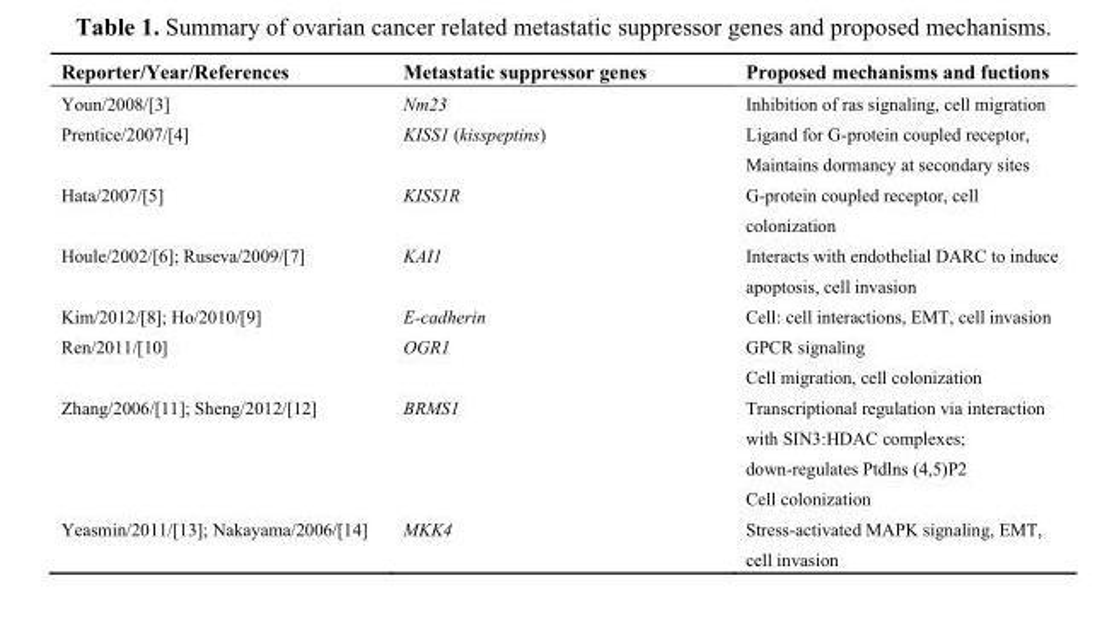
<table><thead><tr><td>Reporter/Year/References</td><td>Metastatic suppressor genes</td><td>Proposed mechanisms and fuctions</td></tr></thead><tbody><tr><td>Youn/2008/[3]</td><td>Nm23</td><td>Inhibition of ras signaling, cell migration</td></tr><tr><td>Prentice/2007/[4]</td><td>KISS1 (kisspeptins)</td><td>Ligand for G-protein coupled receptor, Maintains dormancy at secondary sites</td></tr><tr><td>Hata/2007/[5]</td><td>KISS1R</td><td>G-protein coupled receptor, cell colonization</td></tr><tr><td>Houle/2002/[6]; Ruseva/2009/[7]</td><td>KAI1</td><td>Interacts with endothelial DARC to induce apoptosis, cell invasion</td></tr><tr><td>Kim/2012/[8]; Ho/2010/[9]</td><td>E-cadherin</td><td>Cell: cell interactions, EMT, cell invasion</td></tr><tr><td>Ren/2011/[10]</td><td>OGR1</td><td>GPCR signaling Cell migration, cell colonization</td></tr><tr><td>Zhang/2006/[11]; Sheng/2012/[12]</td><td>BRMS1</td><td>Transcriptional regulation via interaction with SIN3:HDAC complexes; down-regulates Ptdlns (4,5)P2 Cell colonization</td></tr><tr><td>Yeasmin/2011/[13]; Nakayama/2006/[14]</td><td>MKK4</td><td>Stress-activated MAPK signaling, EMT, cell invasion</td></tr></tbody></table>